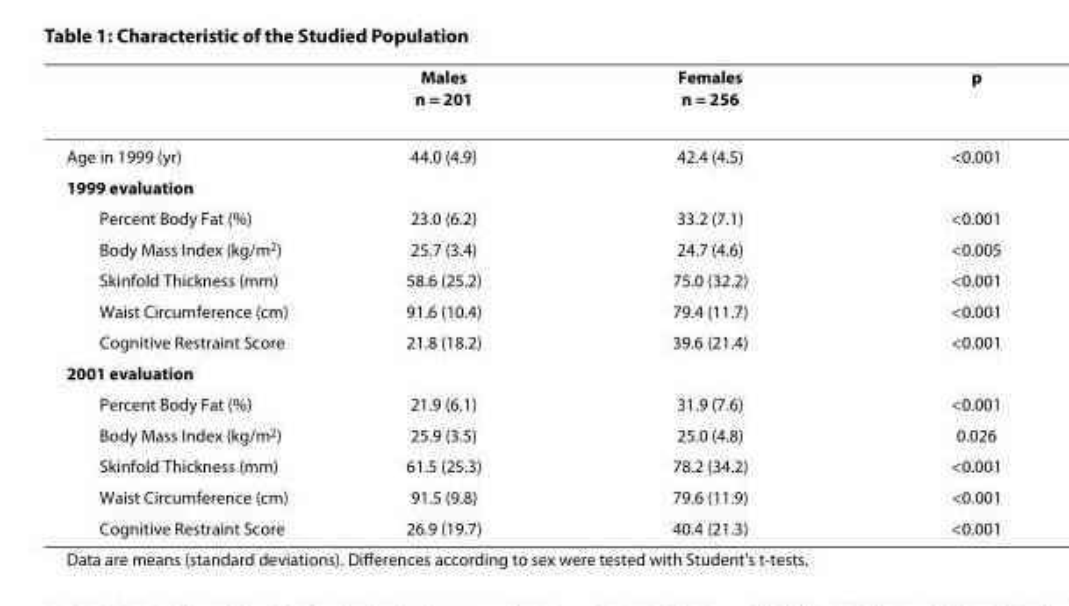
<table><thead><tr><td></td><td>Males n = 201</td><td>Females n = 256</td><td>p</td></tr></thead><tbody><tr><td>Age in 1999 (yr)</td><td>44.0 (4.9)</td><td>42.4 (4.5)</td><td>&lt;0.001</td></tr><tr><td colspan="4">1999 evaluation</td></tr><tr><td>Percent Body Fat (%)</td><td>23.0 (6.2)</td><td>33.2 (7.1)</td><td>&lt;0.001</td></tr><tr><td>Body Mass Index (kg/m<sup>2</sup>)</td><td>25.7 (3.4)</td><td>24.7 (4.6)</td><td>&lt;0.005</td></tr><tr><td>Skinfold Thickness (mm)</td><td>58.6 (25.2)</td><td>75.0 (32.2)</td><td>&lt;0.001</td></tr><tr><td>Waist Circumference (cm)</td><td>91.6 (10.4)</td><td>79.4 (11.7)</td><td>&lt;0.001</td></tr><tr><td>Cognitive Restraint Score</td><td>21.8 (18.2)</td><td>39.6 (21.4)</td><td>&lt;0.001</td></tr><tr><td colspan="4">2001 evaluation</td></tr><tr><td>Percent Body Fat (%)</td><td>21.9 (6.1)</td><td>31.9 (7.6)</td><td>&lt;0.001</td></tr><tr><td>Body Mass Index (kg/m<sup>2</sup>)</td><td>25.9 (3.5)</td><td>25.0 (4.8)</td><td>0.026</td></tr><tr><td>Skinfold Thickness (mm)</td><td>61.5 (25.3)</td><td>78.2 (34.2)</td><td>&lt;0.001</td></tr><tr><td>Waist Circumference (cm)</td><td>91.5 (9.8)</td><td>79.6 (11.9)</td><td>&lt;0.001</td></tr><tr><td>Cognitive Restraint Score</td><td>26.9 (19.7)</td><td>40.4 (21.3)</td><td>&lt;0.001</td></tr></tbody></table>